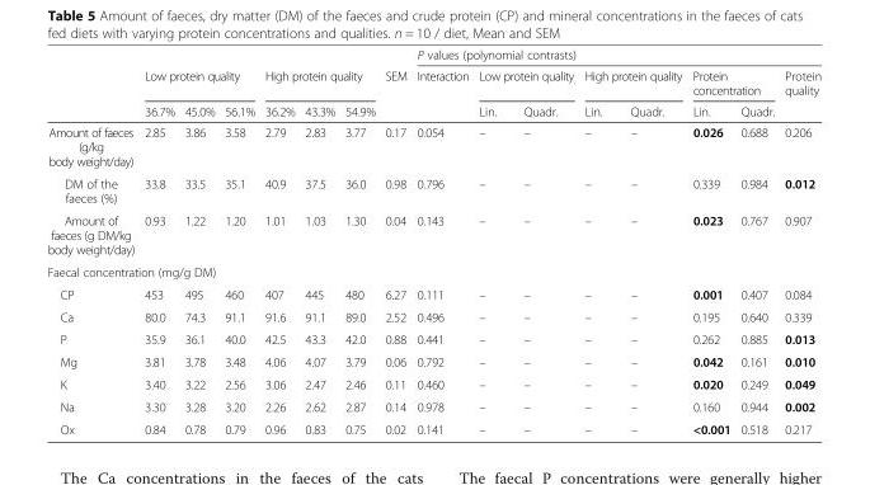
<table><thead><tr><td rowspan="3"></td><td></td><td></td><td></td><td></td><td></td><td></td><td rowspan="3">SEM</td><td colspan="8">P values (polynomial contrasts)</td></tr><tr><td colspan="3">Low protein quality</td><td colspan="3">High protein quality</td><td rowspan="2">Interaction</td><td colspan="2">Low protein quality</td><td colspan="2">High protein quality</td><td colspan="2">Protein concentration</td><td rowspan="2">Protein quality</td></tr><tr><td>36.7%</td><td>45.0%</td><td>56.1%</td><td>36.2%</td><td>43.3%</td><td>54.9%</td><td>Lin.</td><td>Quadr.</td><td>Lin.</td><td>Quadr.</td><td>Lin.</td><td>Quadr.</td></tr></thead><tbody><tr><td>Amount of faeces (g/kg body weight/day)</td><td>2.85</td><td>3.86</td><td>3.58</td><td>2.79</td><td>2.83</td><td>3.77</td><td>0.17</td><td>0.054</td><td>–</td><td>–</td><td>–</td><td>–</td><td>0.026</td><td>0.688</td><td>0.206</td></tr><tr><td>DM of the faeces (%)</td><td>33.8</td><td>33.5</td><td>35.1</td><td>40.9</td><td>37.5</td><td>36.0</td><td>0.98</td><td>0.796</td><td>–</td><td>–</td><td>–</td><td>–</td><td>0.339</td><td>0.984</td><td>0.012</td></tr><tr><td>Amount of faeces (g DM/kg body weight/day)</td><td>0.93</td><td>1.22</td><td>1.20</td><td>1.01</td><td>1.03</td><td>1.30</td><td>0.04</td><td>0.143</td><td>–</td><td>–</td><td>–</td><td>–</td><td>0.023</td><td>0.767</td><td>0.907</td></tr><tr><td colspan="16">Faecal concentration (mg/g DM)</td></tr><tr><td>CP</td><td>453</td><td>495</td><td>460</td><td>407</td><td>445</td><td>480</td><td>6.27</td><td>0.111</td><td>–</td><td>–</td><td>–</td><td>–</td><td>0.001</td><td>0.407</td><td>0.084</td></tr><tr><td>Ca</td><td>80.0</td><td>74.3</td><td>91.1</td><td>91.6</td><td>91.1</td><td>89.0</td><td>2.52</td><td>0.496</td><td>–</td><td>–</td><td>–</td><td>–</td><td>0.195</td><td>0.640</td><td>0.339</td></tr><tr><td>P</td><td>35.9</td><td>36.1</td><td>40.0</td><td>42.5</td><td>43.3</td><td>42.0</td><td>0.88</td><td>0.441</td><td>–</td><td>–</td><td>–</td><td>–</td><td>0.262</td><td>0.885</td><td>0.013</td></tr><tr><td>Mg</td><td>3.81</td><td>3.78</td><td>3.48</td><td>4.06</td><td>4.07</td><td>3.79</td><td>0.06</td><td>0.792</td><td>–</td><td>–</td><td>–</td><td>–</td><td>0.042</td><td>0.161</td><td>0.010</td></tr><tr><td>K</td><td>3.40</td><td>3.22</td><td>2.56</td><td>3.06</td><td>2.47</td><td>2.46</td><td>0.11</td><td>0.460</td><td>–</td><td>–</td><td>–</td><td>–</td><td>0.020</td><td>0.249</td><td>0.049</td></tr><tr><td>Na</td><td>3.30</td><td>3.28</td><td>3.20</td><td>2.26</td><td>2.62</td><td>2.87</td><td>0.14</td><td>0.978</td><td>–</td><td>–</td><td>–</td><td>–</td><td>0.160</td><td>0.944</td><td>0.002</td></tr><tr><td>Ox</td><td>0.84</td><td>0.78</td><td>0.79</td><td>0.96</td><td>0.83</td><td>0.75</td><td>0.02</td><td>0.141</td><td>–</td><td>–</td><td>–</td><td>–</td><td>&lt;0.001</td><td>0.518</td><td>0.217</td></tr></tbody></table>